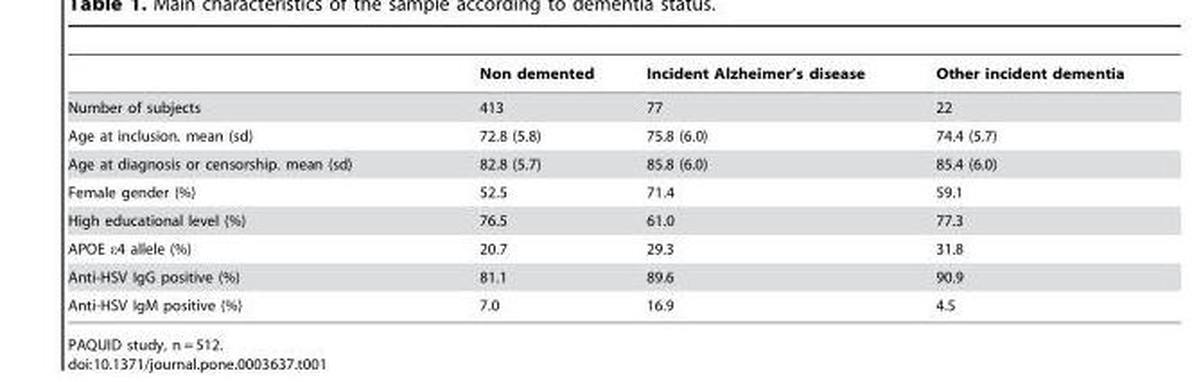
<table><thead><tr><td></td><td>Non demented</td><td>Incident Alzheimer’s disease</td><td>Other incident dementia</td></tr></thead><tbody><tr><td>Number of subjects</td><td>413</td><td>77</td><td>22</td></tr><tr><td>Age at inclusion. mean (sd)</td><td>72.8 (5.8)</td><td>75.8 (6.0)</td><td>74.4 (5.7)</td></tr><tr><td>Age at diagnosis or censorship. mean (sd)</td><td>82.8 (5.7)</td><td>85.8 (6.0)</td><td>85.4 (6.0)</td></tr><tr><td>Female gender (%)</td><td>52.5</td><td>71.4</td><td>59.1</td></tr><tr><td>High educational level (%)</td><td>76.5</td><td>61.0</td><td>77.3</td></tr><tr><td>APOE ε4 allele (%)</td><td>20.7</td><td>29.3</td><td>31.8</td></tr><tr><td>Anti-HSV IgG positive (%)</td><td>81.1</td><td>89.6</td><td>90.9</td></tr><tr><td>Anti-HSV IgM positive (%)</td><td>7.0</td><td>16.9</td><td>4.5</td></tr></tbody></table>